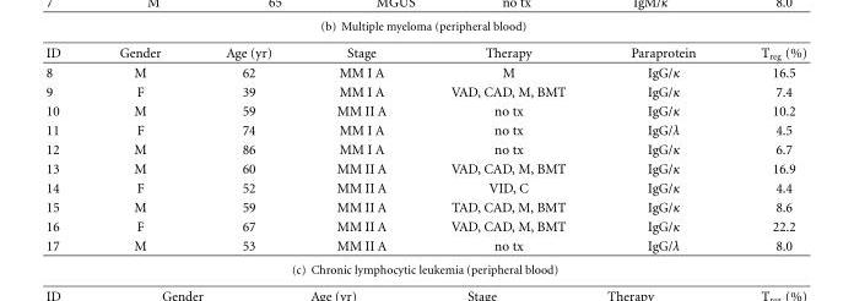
<table><thead><tr><td>ID</td><td>Gender</td><td>Age (yr)</td><td>Stage</td><td>Therapy</td><td>Paraprotein</td><td>T<sub>reg</sub> (%)</td></tr></thead><tbody><tr><td>8</td><td>M</td><td>62</td><td>MM I A</td><td>M</td><td>IgG/κ</td><td>16.5</td></tr><tr><td>9</td><td>F</td><td>39</td><td>MM I A</td><td>VAD, CAD, M, BMT</td><td>IgG/κ</td><td>7.4</td></tr><tr><td>10</td><td>M</td><td>59</td><td>MM II A</td><td>no tx</td><td>IgG/κ</td><td>10.2</td></tr><tr><td>11</td><td>F</td><td>74</td><td>MM I A</td><td>no tx</td><td>IgG/λ</td><td>4.5</td></tr><tr><td>12</td><td>M</td><td>86</td><td>MM I A</td><td>no tx</td><td>IgG/κ</td><td>6.7</td></tr><tr><td>13</td><td>M</td><td>60</td><td>MM II A</td><td>VAD, CAD, M, BMT</td><td>IgG/κ</td><td>16.9</td></tr><tr><td>14</td><td>F</td><td>52</td><td>MM II A</td><td>VID, C</td><td>IgG/κ</td><td>4.4</td></tr><tr><td>15</td><td>M</td><td>59</td><td>MM II A</td><td>TAD, CAD, M, BMT</td><td>IgG/κ</td><td>8.6</td></tr><tr><td>16</td><td>F</td><td>67</td><td>MM II A</td><td>VAD, CAD, M, BMT</td><td>IgG/κ</td><td>22.2</td></tr><tr><td>17</td><td>M</td><td>53</td><td>MM II A</td><td>no tx</td><td>IgG/λ</td><td>8.0</td></tr></tbody></table>